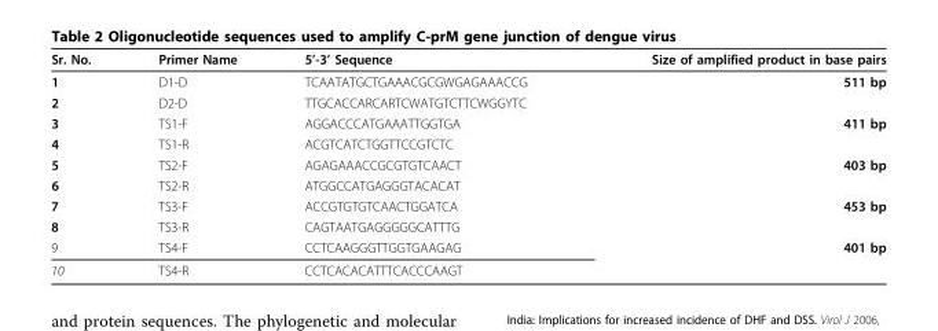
<table><thead><tr><td>Sr. No.</td><td>Primer Name</td><td>5’-3’ Sequence</td><td>Size of amplified product in base pairs</td></tr></thead><tbody><tr><td>1</td><td>D1-D</td><td>TCAATATGCTGAAACGCGWGAGAAACCG</td><td>511 bp</td></tr><tr><td>2</td><td>D2-D</td><td>TTGCACCARCARTCWATGTCTTCWGGYTC</td><td></td></tr><tr><td>3</td><td>TS1-F</td><td>AGGACCCATGAAATTGGTGA</td><td>411 bp</td></tr><tr><td>4</td><td>TS1-R</td><td>ACGTCATCTGGTTCCGTCTC</td><td></td></tr><tr><td>5</td><td>TS2-F</td><td>AGAGAAACCGCGTGTCAACT</td><td>403 bp</td></tr><tr><td>6</td><td>TS2-R</td><td>ATGGCCATGAGGGTACACAT</td><td></td></tr><tr><td>7</td><td>TS3-F</td><td>ACCGTGTGTCAACTGGATCA</td><td>453 bp</td></tr><tr><td>8</td><td>TS3-R</td><td>CAGTAATGAGGGGGCATTTG</td><td></td></tr><tr><td>9</td><td>TS4-F</td><td>CCTCAAGGGTTGGTGAAGAG</td><td>401 bp</td></tr><tr><td>10</td><td>TS4-R</td><td>CCTCACACATTTCACCCAAGT</td><td></td></tr></tbody></table>